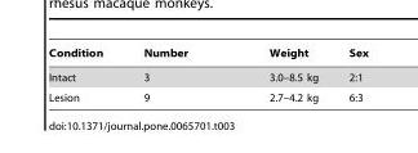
<table><thead><tr><td>Condition</td><td>Number</td><td>Weight</td><td>Sex</td></tr></thead><tbody><tr><td>Intact</td><td>3</td><td>3.0–8.5 kg</td><td>2:1</td></tr><tr><td>Lesion</td><td>9</td><td>2.7–4.2 kg</td><td>6:3</td></tr></tbody></table>